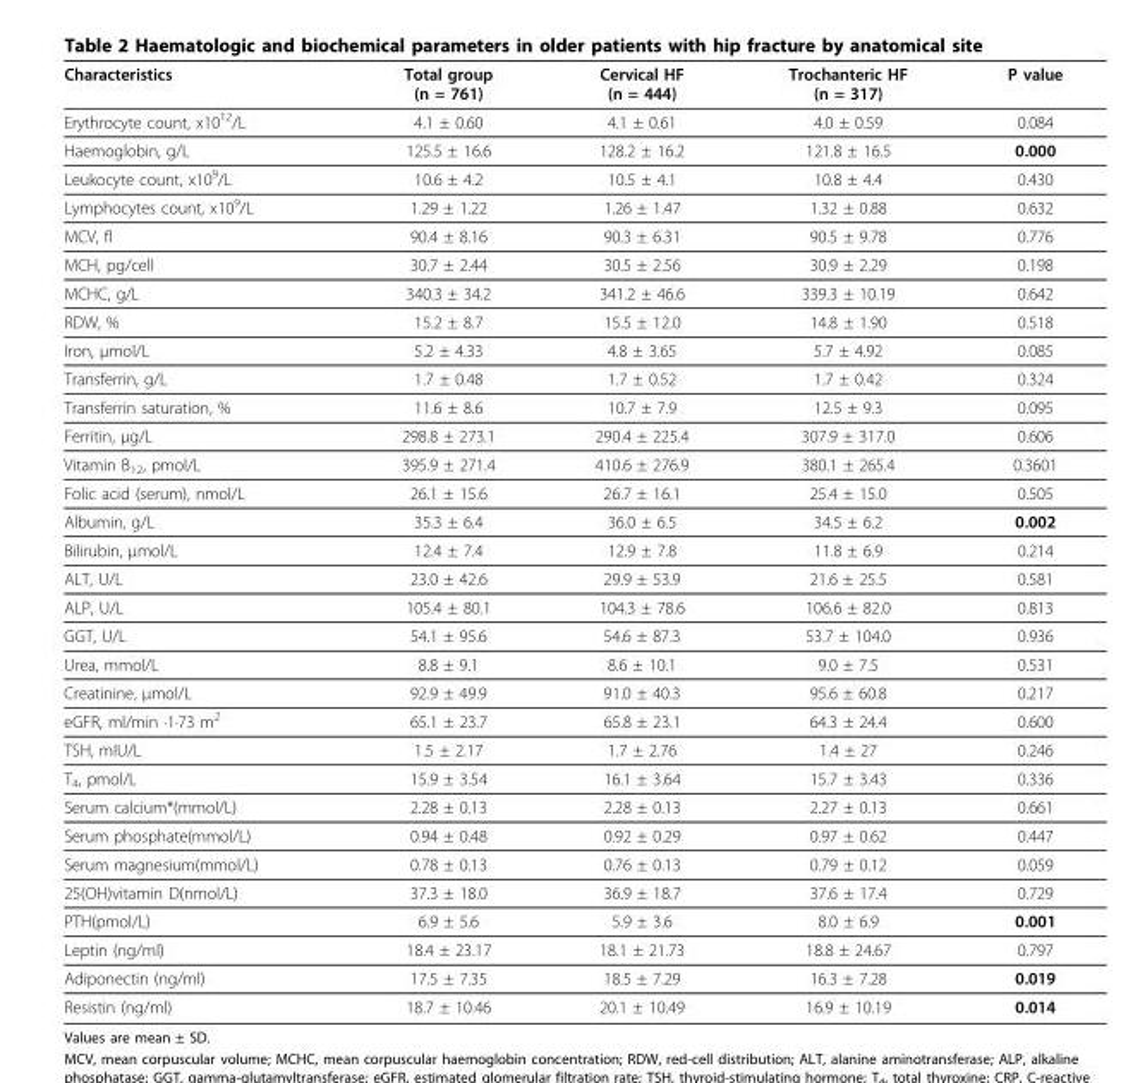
<table><thead><tr><td>Characteristics</td><td>Total group (n = 761)</td><td>Cervical HF (n = 444)</td><td>Trochanteric HF (n = 317)</td><td>P value</td></tr></thead><tbody><tr><td>Erythrocyte count, x10<sup>12</sup>/L</td><td>4.1 ± 0.60</td><td>4.1 ± 0.61</td><td>4.0 ± 0.59</td><td>0.084</td></tr><tr><td>Haemoglobin, g/L</td><td>125.5 ± 16.6</td><td>128.2 ± 16.2</td><td>121.8 ± 16.5</td><td>0.000</td></tr><tr><td>Leukocyte count, x10<sup>9</sup>/L</td><td>10.6 ± 4.2</td><td>10.5 ± 4.1</td><td>10.8 ± 4.4</td><td>0.430</td></tr><tr><td>Lymphocytes count, x10<sup>9</sup>/L</td><td>1.29 ± 1.22</td><td>1.26 ± 1.47</td><td>1.32 ± 0.88</td><td>0.632</td></tr><tr><td>MCV, fl</td><td>90.4 ± 8.16</td><td>90.3 ± 6.31</td><td>90.5 ± 9.78</td><td>0.776</td></tr><tr><td>MCH, pg/cell</td><td>30.7 ± 2.44</td><td>30.5 ± 2.56</td><td>30.9 ± 2.29</td><td>0.198</td></tr><tr><td>MCHC, g/L</td><td>340.3 ± 34.2</td><td>341.2 ± 46.6</td><td>339.3 ± 10.19</td><td>0.642</td></tr><tr><td>RDW, %</td><td>15.2 ± 8.7</td><td>15.5 ± 12.0</td><td>14.8 ± 1.90</td><td>0.518</td></tr><tr><td>Iron, μmol/L</td><td>5.2 ± 4.33</td><td>4.8 ± 3.65</td><td>5.7 ± 4.92</td><td>0.085</td></tr><tr><td>Transferrin, g/L</td><td>1.7 ± 0.48</td><td>1.7 ± 0.52</td><td>1.7 ± 0.42</td><td>0.324</td></tr><tr><td>Transferrin saturation, %</td><td>11.6 ± 8.6</td><td>10.7 ± 7.9</td><td>12.5 ± 9.3</td><td>0.095</td></tr><tr><td>Ferritin, μg/L</td><td>298.8 ± 273.1</td><td>290.4 ± 225.4</td><td>307.9 ± 317.0</td><td>0.606</td></tr><tr><td>Vitamin B<sub>12</sub>, pmol/L</td><td>395.9 ± 271.4</td><td>410.6 ± 276.9</td><td>380.1 ± 265.4</td><td>0.3601</td></tr><tr><td>Folic acid (serum), nmol/L</td><td>26.1 ± 15.6</td><td>26.7 ± 16.1</td><td>25.4 ± 15.0</td><td>0.505</td></tr><tr><td>Albumin, g/L</td><td>35.3 ± 6.4</td><td>36.0 ± 6.5</td><td>34.5 ± 6.2</td><td>0.002</td></tr><tr><td>Bilirubin, μmol/L</td><td>12.4 ± 7.4</td><td>12.9 ± 7.8</td><td>11.8 ± 6.9</td><td>0.214</td></tr><tr><td>ALT, U/L</td><td>23.0 ± 42.6</td><td>29.9 ± 53.9</td><td>21.6 ± 25.5</td><td>0.581</td></tr><tr><td>ALP, U/L</td><td>105.4 ± 80.1</td><td>104.3 ± 78.6</td><td>106.6 ± 82.0</td><td>0.813</td></tr><tr><td>GGT, U/L</td><td>54.1 ± 95.6</td><td>54.6 ± 87.3</td><td>53.7 ± 104.0</td><td>0.936</td></tr><tr><td>Urea, mmol/L</td><td>8.8 ± 9.1</td><td>8.6 ± 10.1</td><td>9.0 ± 7.5</td><td>0.531</td></tr><tr><td>Creatinine, μmol/L</td><td>92.9 ± 49.9</td><td>91.0 ± 40.3</td><td>95.6 ± 60.8</td><td>0.217</td></tr><tr><td>eGFR, ml/min ·1·73 m<sup>2</sup></td><td>65.1 ± 23.7</td><td>65.8 ± 23.1</td><td>64.3 ± 24.4</td><td>0.600</td></tr><tr><td>TSH, mIU/L</td><td>1.5 ± 2.17</td><td>1.7 ± 2.76</td><td>1.4 ± 27</td><td>0.246</td></tr><tr><td>T<sub>4</sub>, pmol/L</td><td>15.9 ± 3.54</td><td>16.1 ± 3.64</td><td>15.7 ± 3.43</td><td>0.336</td></tr><tr><td>Serum calcium*(mmol/L)</td><td>2.28 ± 0.13</td><td>2.28 ± 0.13</td><td>2.27 ± 0.13</td><td>0.661</td></tr><tr><td>Serum phosphate(mmol/L)</td><td>0.94 ± 0.48</td><td>0.92 ± 0.29</td><td>0.97 ± 0.62</td><td>0.447</td></tr><tr><td>Serum magnesium(mmol/L)</td><td>0.78 ± 0.13</td><td>0.76 ± 0.13</td><td>0.79 ± 0.12</td><td>0.059</td></tr><tr><td>25(OH)vitamin D(nmol/L)</td><td>37.3 ± 18.0</td><td>36.9 ± 18.7</td><td>37.6 ± 17.4</td><td>0.729</td></tr><tr><td>PTH(pmol/L)</td><td>6.9 ± 5.6</td><td>5.9 ± 3.6</td><td>8.0 ± 6.9</td><td>0.001</td></tr><tr><td>Leptin (ng/ml)</td><td>18.4 ± 23.17</td><td>18.1 ± 21.73</td><td>18.8 ± 24.67</td><td>0.797</td></tr><tr><td>Adiponectin (ng/ml)</td><td>17.5 ± 7.35</td><td>18.5 ± 7.29</td><td>16.3 ± 7.28</td><td>0.019</td></tr><tr><td>Resistin (ng/ml)</td><td>18.7 ± 10.46</td><td>20.1 ± 10.49</td><td>16.9 ± 10.19</td><td>0.014</td></tr></tbody></table>